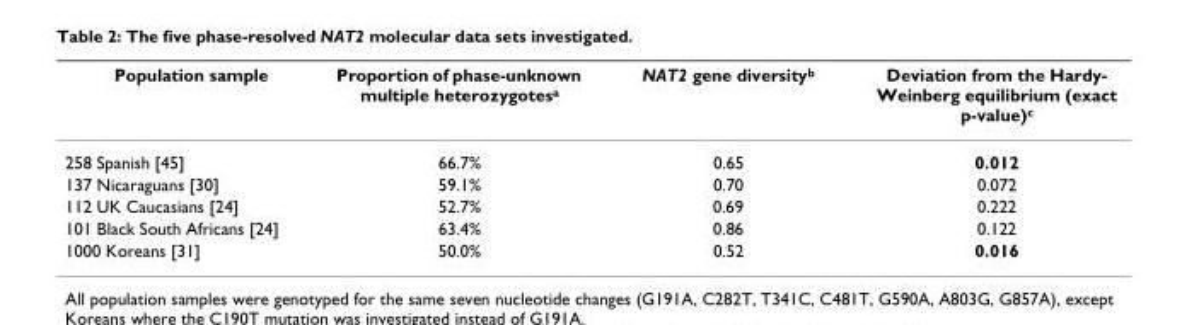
<table><thead><tr><td>Population sample</td><td>Proportion of phase-unknown multiple heterozygotes<sup>a</sup></td><td>NAT2 gene diversity<sup>b</sup></td><td>Deviation from the Hardy- Weinberg equilibrium (exact p-value)<sup>c</sup></td></tr></thead><tbody><tr><td>258 Spanish [45]</td><td>66.7%</td><td>0.65</td><td>0.012</td></tr><tr><td>137 Nicaraguans [30]</td><td>59.1%</td><td>0.70</td><td>0.072</td></tr><tr><td>112 UK Caucasians [24]</td><td>52.7%</td><td>0.69</td><td>0.222</td></tr><tr><td>101 Black South Africans [24]</td><td>63.4%</td><td>0.86</td><td>0.122</td></tr><tr><td>1000 Koreans [31]</td><td>50.0%</td><td>0.52</td><td>0.016</td></tr></tbody></table>